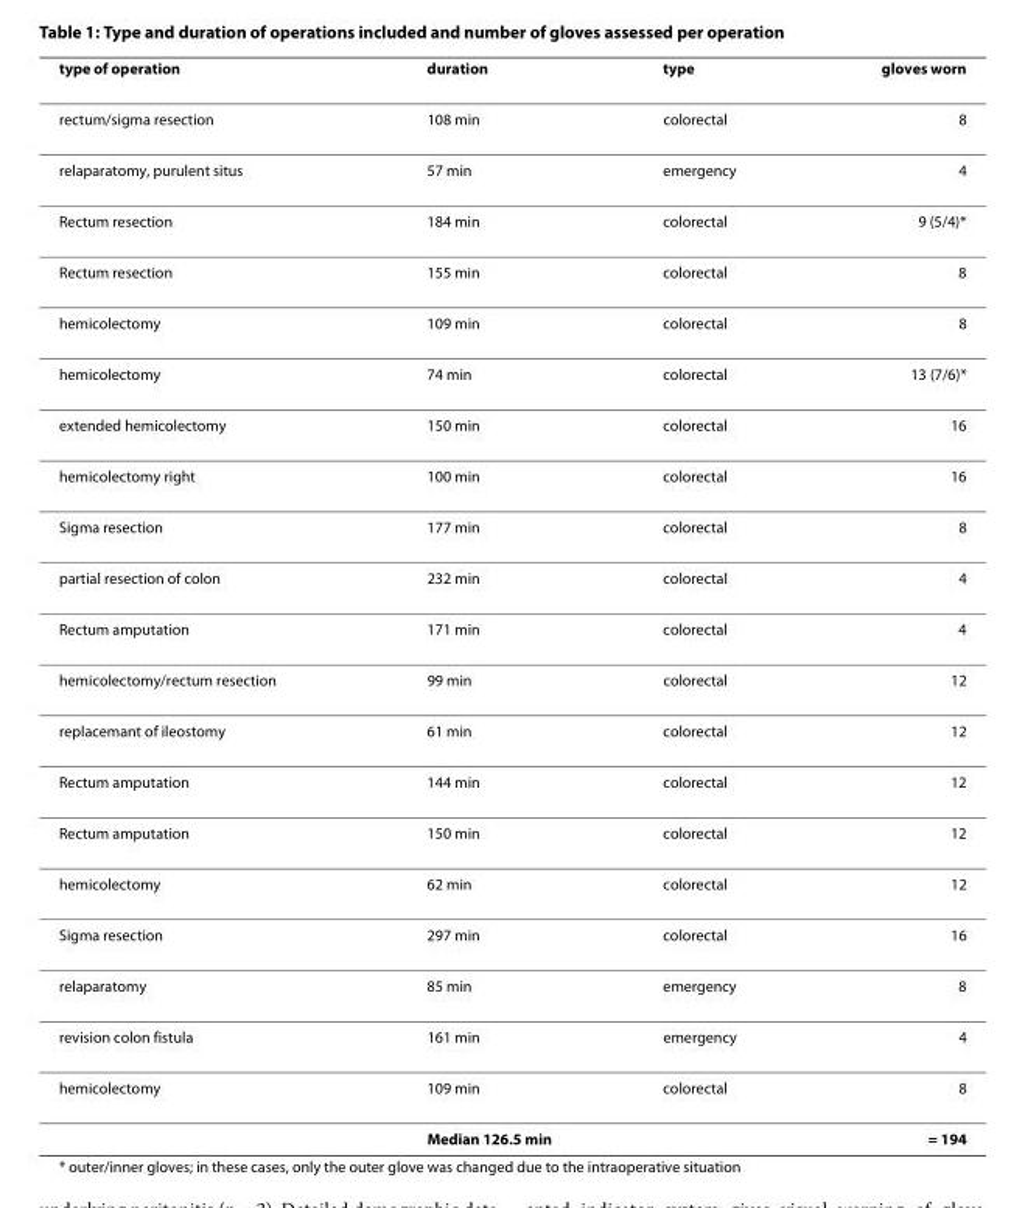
<table><thead><tr><td>type of operation</td><td>duration</td><td>type</td><td>gloves worn</td></tr></thead><tbody><tr><td>rectum/sigma resection</td><td>108 min</td><td>colorectal</td><td>8</td></tr><tr><td>relaparatomy, purulent situs</td><td>57 min</td><td>emergency</td><td>4</td></tr><tr><td>Rectum resection</td><td>184 min</td><td>colorectal</td><td>9 (5/4)*</td></tr><tr><td>Rectum resection</td><td>155 min</td><td>colorectal</td><td>8</td></tr><tr><td>hemicolectomy</td><td>109 min</td><td>colorectal</td><td>8</td></tr><tr><td>hemicolectomy</td><td>74 min</td><td>colorectal</td><td>13 (7/6)*</td></tr><tr><td>extended hemicolectomy</td><td>150 min</td><td>colorectal</td><td>16</td></tr><tr><td>hemicolectomy right</td><td>100 min</td><td>colorectal</td><td>16</td></tr><tr><td>Sigma resection</td><td>177 min</td><td>colorectal</td><td>8</td></tr><tr><td>partial resection of colon</td><td>232 min</td><td>colorectal</td><td>4</td></tr><tr><td>Rectum amputation</td><td>171 min</td><td>colorectal</td><td>4</td></tr><tr><td>hemicolectomy/rectum resection</td><td>99 min</td><td>colorectal</td><td>12</td></tr><tr><td>replacemant of ileostomy</td><td>61 min</td><td>colorectal</td><td>12</td></tr><tr><td>Rectum amputation</td><td>144 min</td><td>colorectal</td><td>12</td></tr><tr><td>Rectum amputation</td><td>150 min</td><td>colorectal</td><td>12</td></tr><tr><td>hemicolectomy</td><td>62 min</td><td>colorectal</td><td>12</td></tr><tr><td>Sigma resection</td><td>297 min</td><td>colorectal</td><td>16</td></tr><tr><td>relaparatomy</td><td>85 min</td><td>emergency</td><td>8</td></tr><tr><td>revision colon fistula</td><td>161 min</td><td>emergency</td><td>4</td></tr><tr><td rowspan="2">hemicolectomy</td><td>109 min</td><td>colorectal</td><td>8</td></tr><tr><td>Median 126.5 min</td><td></td><td>∑ = 194</td></tr></tbody></table>